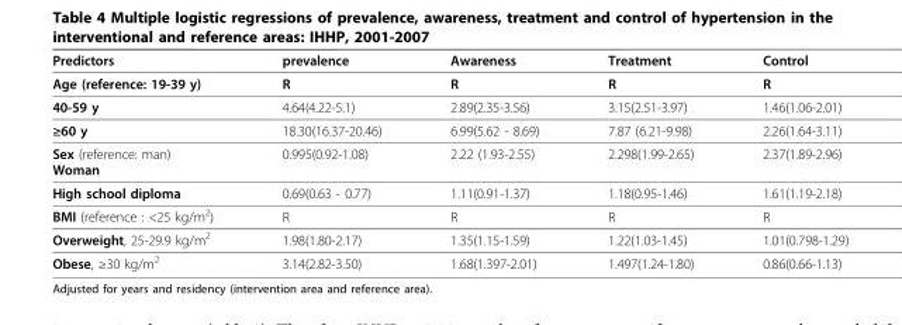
<table><thead><tr><td>Predictors</td><td>prevalence</td><td>Awareness</td><td>Treatment</td><td>Control</td></tr></thead><tbody><tr><td>Age (reference: 19-39 y)</td><td>R</td><td>R</td><td>R</td><td>R</td></tr><tr><td>40-59 y</td><td>4.64(4.22-5.1)</td><td>2.89(2.35-3.56)</td><td>3.15(2.51-3.97)</td><td>1.46(1.06-2.01)</td></tr><tr><td>≥60 y</td><td>18.30(16.37-20.46)</td><td>6.99(5.62 - 8.69)</td><td>7.87 (6.21-9.98)</td><td>2.26(1.64-3.11)</td></tr><tr><td>Sex (reference: man) Woman</td><td>0.995(0.92-1.08)</td><td>2.22 (1.93-2.55)</td><td>2.298(1.99-2.65)</td><td>2.37(1.89-2.96)</td></tr><tr><td>High school diploma</td><td>0.69(0.63 - 0.77)</td><td>1.11(0.91-1.37)</td><td>1.18(0.95-1.46)</td><td>1.61(1.19-2.18)</td></tr><tr><td>BMI (reference : &lt;25 kg/m<sup>2</sup>)</td><td>R</td><td>R</td><td>R</td><td>R</td></tr><tr><td>Overweight, 25-29.9 kg/m<sup>2</sup></td><td>1.98(1.80-2.17)</td><td>1.35(1.15-1.59)</td><td>1.22(1.03-1.45)</td><td>1.01(0.798-1.29)</td></tr><tr><td>Obese, ≥30 kg/m<sup>2</sup></td><td>3.14(2.82-3.50)</td><td>1.68(1.397-2.01)</td><td>1.497(1.24-1.80)</td><td>0.86(0.66-1.13)</td></tr></tbody></table>